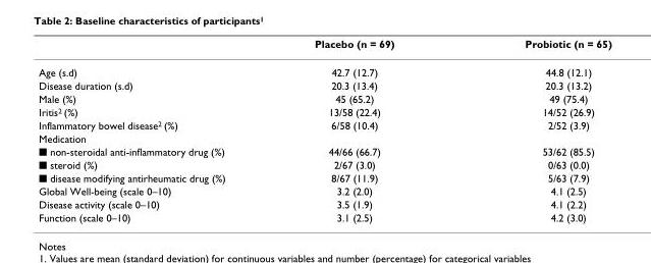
<table><thead><tr><td></td><td>Placebo (n = 69)</td><td>Probiotic (n = 65)</td></tr></thead><tbody><tr><td>Age (s.d)</td><td>42.7 (12.7)</td><td>44.8 (12.1)</td></tr><tr><td>Disease duration (s.d)</td><td>20.3 (13.4)</td><td>20.3 (13.2)</td></tr><tr><td>Male (%)</td><td>45 (65.2)</td><td>49 (75.4)</td></tr><tr><td>Iritis<sup>2</sup> (%)</td><td>13/58 (22.4)</td><td>14/52 (26.9)</td></tr><tr><td>Inflammatory bowel disease<sup>2</sup> (%)</td><td>6/58 (10.4)</td><td>2/52 (3.9)</td></tr><tr><td colspan="3">Medication</td></tr><tr><td>■ non-steroidal anti-inflammatory drug (%)</td><td>44/66 (66.7)</td><td>53/62 (85.5)</td></tr><tr><td>■ steroid (%)</td><td>2/67 (3.0)</td><td>0/63 (0.0)</td></tr><tr><td>■ disease modifying antirheumatic drug (%)</td><td>8/67 (11.9)</td><td>5/63 (7.9)</td></tr><tr><td>Global Well-being (scale 0–10)</td><td>3.2 (2.0)</td><td>4.1 (2.5)</td></tr><tr><td>Disease activity (scale 0–10)</td><td>3.5 (1.9)</td><td>4.1 (2.2)</td></tr><tr><td>Function (scale 0–10)</td><td>3.1 (2.5)</td><td>4.2 (3.0)</td></tr></tbody></table>